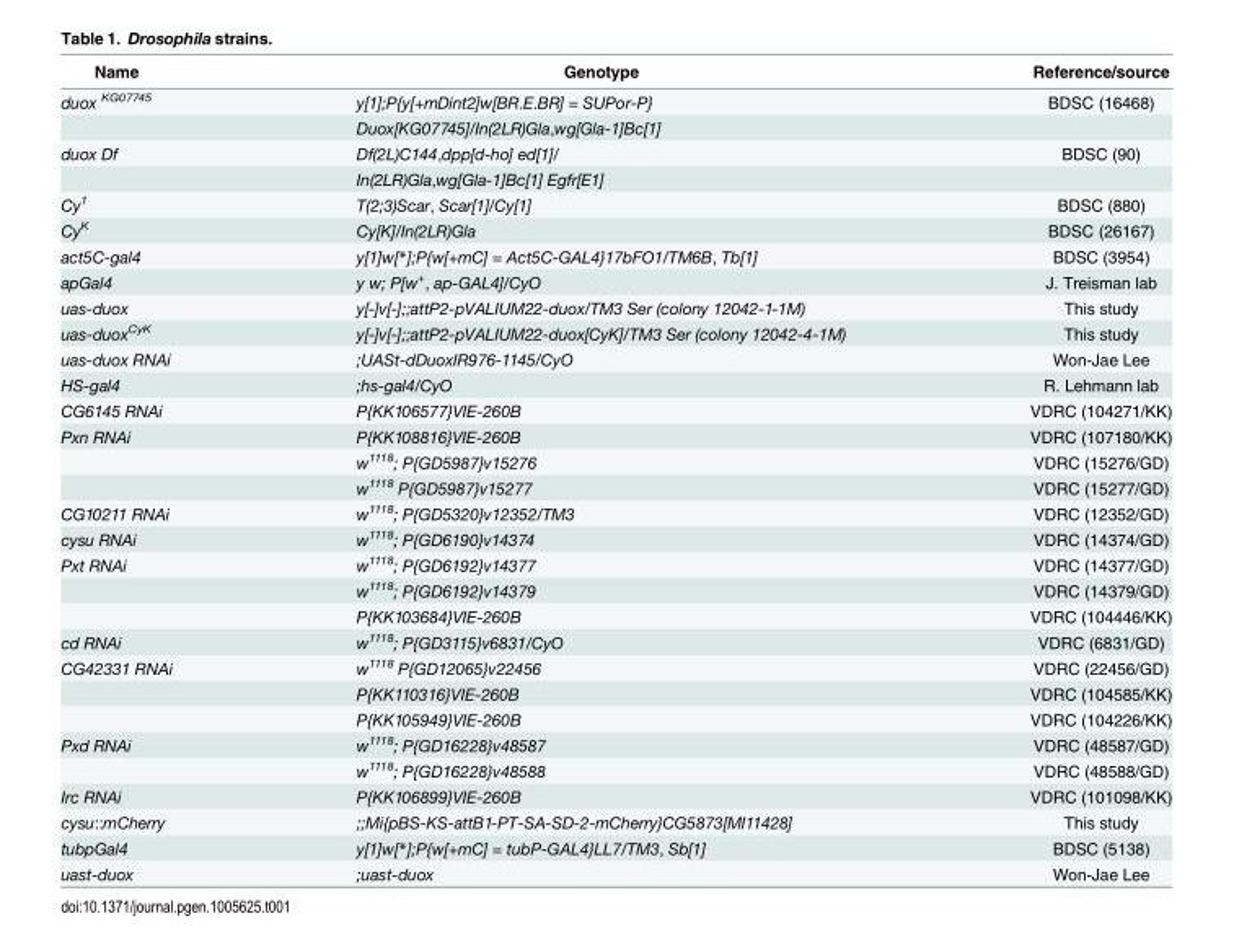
<table><thead><tr><td>Name</td><td>Genotype</td><td>Reference/source</td></tr></thead><tbody><tr><td rowspan="2">duox <sup>KG07745</sup></td><td>y[1];P{y[+mDint2]w[BR.E.BR] = SUPor-P}</td><td>BDSC (16468)</td></tr><tr><td>Duox[KG07745]/In(2LR)Gla,wg[Gla-1]Bc[1]</td><td></td></tr><tr><td rowspan="2">duox Df</td><td>Df(2L)C144,dpp[d-ho] ed[1]/</td><td>BDSC (90)</td></tr><tr><td>In(2LR)Gla,wg[Gla-1]Bc[1] Egfr[E1]</td><td></td></tr><tr><td>Cy<sup>1</sup></td><td>T(2;3)Scar, Scar[1]/Cy[1]</td><td>BDSC (880)</td></tr><tr><td>Cy<sup>K</sup></td><td>Cy[K]/In(2LR)Gla</td><td>BDSC (26167)</td></tr><tr><td>act5C-gal4</td><td>y[1]w[*];P{w[+mC] = Act5C-GAL4}17bFO1/TM6B, Tb[1]</td><td>BDSC (3954)</td></tr><tr><td>apGal4</td><td>y w; P[w<sup>+</sup>, ap-GAL4]/CyO</td><td>J. Treisman lab</td></tr><tr><td>uas-duox</td><td>y[-]v[-];;attP2-pVALIUM22-duox/TM3 Ser (colony 12042-1-1M)</td><td>This study</td></tr><tr><td>uas-duox<sup>CyK</sup></td><td>y[-]v[-];;attP2-pVALIUM22-duox[CyK]/TM3 Ser (colony 12042-4-1M)</td><td>This study</td></tr><tr><td>uas-duox RNAi</td><td>;UASt-dDuoxIR976-1145/CyO</td><td>Won-Jae Lee</td></tr><tr><td>HS-gal4</td><td>;hs-gal4/CyO</td><td>R. Lehmann lab</td></tr><tr><td>CG6145 RNAi</td><td>P{KK106577}VIE-260B</td><td>VDRC (104271/KK)</td></tr><tr><td rowspan="3">Pxn RNAi</td><td>P{KK108816}VIE-260B</td><td>VDRC (107180/KK)</td></tr><tr><td>w<sup>1118</sup>; P{GD5987}v15276</td><td>VDRC (15276/GD)</td></tr><tr><td>w<sup>1118</sup> P{GD5987}v15277</td><td>VDRC (15277/GD)</td></tr><tr><td>CG10211 RNAi</td><td>w<sup>1118</sup>; P{GD5320}v12352/TM3</td><td>VDRC (12352/GD)</td></tr><tr><td>cysu RNAi</td><td>w<sup>1118</sup>; P{GD6190}v14374</td><td>VDRC (14374/GD)</td></tr><tr><td rowspan="3">Pxt RNAi</td><td>w<sup>1118</sup>; P{GD6192}v14377</td><td>VDRC (14377/GD)</td></tr><tr><td>w<sup>1118</sup>; P{GD6192}v14379</td><td>VDRC (14379/GD)</td></tr><tr><td>P{KK103684}VIE-260B</td><td>VDRC (104446/KK)</td></tr><tr><td>cd RNAi</td><td>w<sup>1118</sup>; P{GD3115}v6831/CyO</td><td>VDRC (6831/GD)</td></tr><tr><td rowspan="3">CG42331 RNAi</td><td>w<sup>1118</sup> P{GD12065}v22456</td><td>VDRC (22456/GD)</td></tr><tr><td>P{KK110316}VIE-260B</td><td>VDRC (104585/KK)</td></tr><tr><td>P{KK105949}VIE-260B</td><td>VDRC (104226/KK)</td></tr><tr><td rowspan="2">Pxd RNAi</td><td>w<sup>1118</sup>; P{GD16228}v48587</td><td>VDRC (48587/GD)</td></tr><tr><td>w<sup>1118</sup>; P{GD16228}v48588</td><td>VDRC (48588/GD)</td></tr><tr><td>Irc RNAi</td><td>P{KK106899}VIE-260B</td><td>VDRC (101098/KK)</td></tr><tr><td>cysu::mCherry</td><td>;;Mi{pBS-KS-attB1-PT-SA-SD-2-mCherry}CG5873[MI11428]</td><td>This study</td></tr><tr><td>tubpGal4</td><td>y[1]w[*];P{w[+mC] = tubP-GAL4}LL7/TM3, Sb[1]</td><td>BDSC (5138)</td></tr><tr><td>uast-duox</td><td>;uast-duox</td><td>Won-Jae Lee</td></tr></tbody></table>